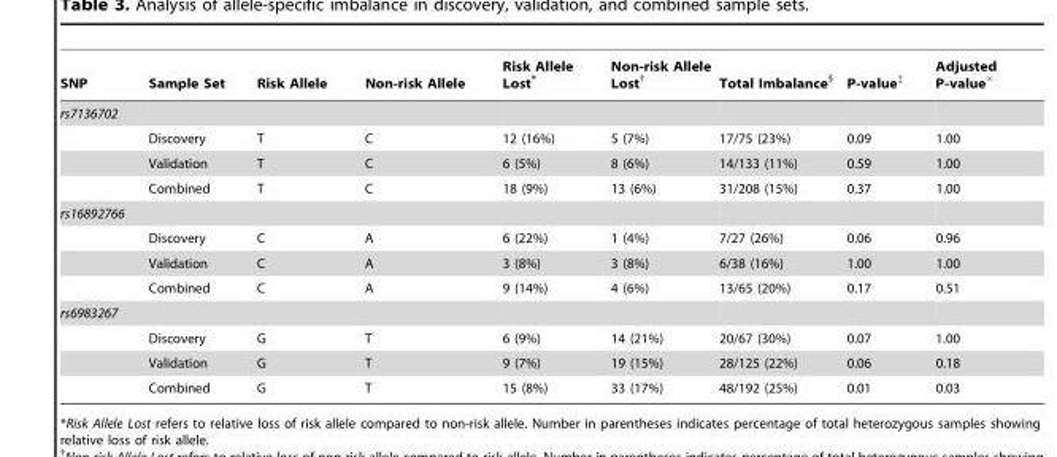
<table><thead><tr><td>SNP</td><td>Sample Set</td><td>Risk Allele</td><td>Non-risk Allele</td><td>Risk Allele Lost*</td><td>Non-risk Allele Lost†</td><td>Total Imbalance§</td><td>P-value‡</td><td>Adjusted P-value‘</td></tr></thead><tbody><tr><td colspan="9">rs7136702</td></tr><tr><td></td><td>Discovery</td><td>T</td><td>C</td><td>12 (16%)</td><td>5 (7%)</td><td>17/75 (23%)</td><td>0.09</td><td>1.00</td></tr><tr><td></td><td>Validation</td><td>T</td><td>C</td><td>6 (5%)</td><td>8 (6%)</td><td>14/133 (11%)</td><td>0.59</td><td>1.00</td></tr><tr><td></td><td>Combined</td><td>T</td><td>C</td><td>18 (9%)</td><td>13 (6%)</td><td>31/208 (15%)</td><td>0.37</td><td>1.00</td></tr><tr><td colspan="9">rs16892766</td></tr><tr><td></td><td>Discovery</td><td>C</td><td>A</td><td>6 (22%)</td><td>1 (4%)</td><td>7/27 (26%)</td><td>0.06</td><td>0.96</td></tr><tr><td></td><td>Validation</td><td>C</td><td>A</td><td>3 (8%)</td><td>3 (8%)</td><td>6/38 (16%)</td><td>1.00</td><td>1.00</td></tr><tr><td></td><td>Combined</td><td>C</td><td>A</td><td>9 (14%)</td><td>4 (6%)</td><td>13/65 (20%)</td><td>0.17</td><td>0.51</td></tr><tr><td colspan="9">rs6983267</td></tr><tr><td></td><td>Discovery</td><td>G</td><td>T</td><td>6 (9%)</td><td>14 (21%)</td><td>20/67 (30%)</td><td>0.07</td><td>1.00</td></tr><tr><td></td><td>Validation</td><td>G</td><td>T</td><td>9 (7%)</td><td>19 (15%)</td><td>28/125 (22%)</td><td>0.06</td><td>0.18</td></tr><tr><td></td><td>Combined</td><td>G</td><td>T</td><td>15 (8%)</td><td>33 (17%)</td><td>48/192 (25%)</td><td>0.01</td><td>0.03</td></tr></tbody></table>